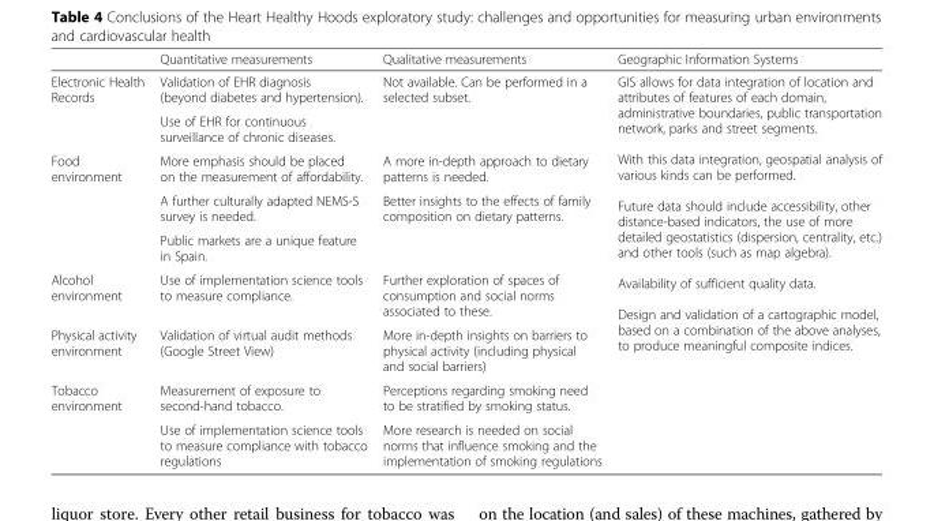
<table><thead><tr><td></td><td>Quantitative measurements</td><td>Qualitative measurements</td><td>Geographic Information Systems</td></tr></thead><tbody><tr><td rowspan="2">Electronic Health Records</td><td>Validation of EHR diagnosis (beyond diabetes and hypertension).</td><td rowspan="2">Not available. Can be performed in a selected subset.</td><td rowspan="9">GIS allows for data integration of location and attributes of features of each domain, administrative boundaries, public transportation network, parks and street segments. With this data integration, geospatial analysis of various kinds can be performed. Future data should include accessibility, other distance-based indicators, the use of more detailed geostatistics (dispersion, centrality, etc.) and other tools (such as map algebra). Availability of sufficient quality data. Design and validation of a cartographic model, based on a combination of the above analyses, to produce meaningful composite indices.</td></tr><tr><td>Use of EHR for continuous surveillance of chronic diseases.</td></tr><tr><td rowspan="3">Food environment</td><td>More emphasis should be placed on the measurement of affordability.</td><td>A more in-depth approach to dietary patterns is needed.</td></tr><tr><td>A further culturally adapted NEMS-S survey is needed.</td><td rowspan="2">Better insights to the effects of family composition on dietary patterns.</td></tr><tr><td>Public markets are a unique feature in Spain.</td></tr><tr><td>Alcohol environment</td><td>Use of implementation science tools to measure compliance.</td><td>Further exploration of spaces of consumption and social norms associated to these.</td></tr><tr><td>Physical activity environment</td><td>Validation of virtual audit methods (Google Street View)</td><td>More in-depth insights on barriers to physical activity (including physical and social barriers)</td></tr><tr><td rowspan="2">Tobacco environment</td><td>Measurement of exposure to second-hand tobacco.</td><td>Perceptions regarding smoking need to be stratified by smoking status.</td></tr><tr><td>Use of implementation science tools to measure compliance with tobacco regulations</td><td>More research is needed on social norms that influence smoking and the implementation of smoking regulations</td></tr></tbody></table>